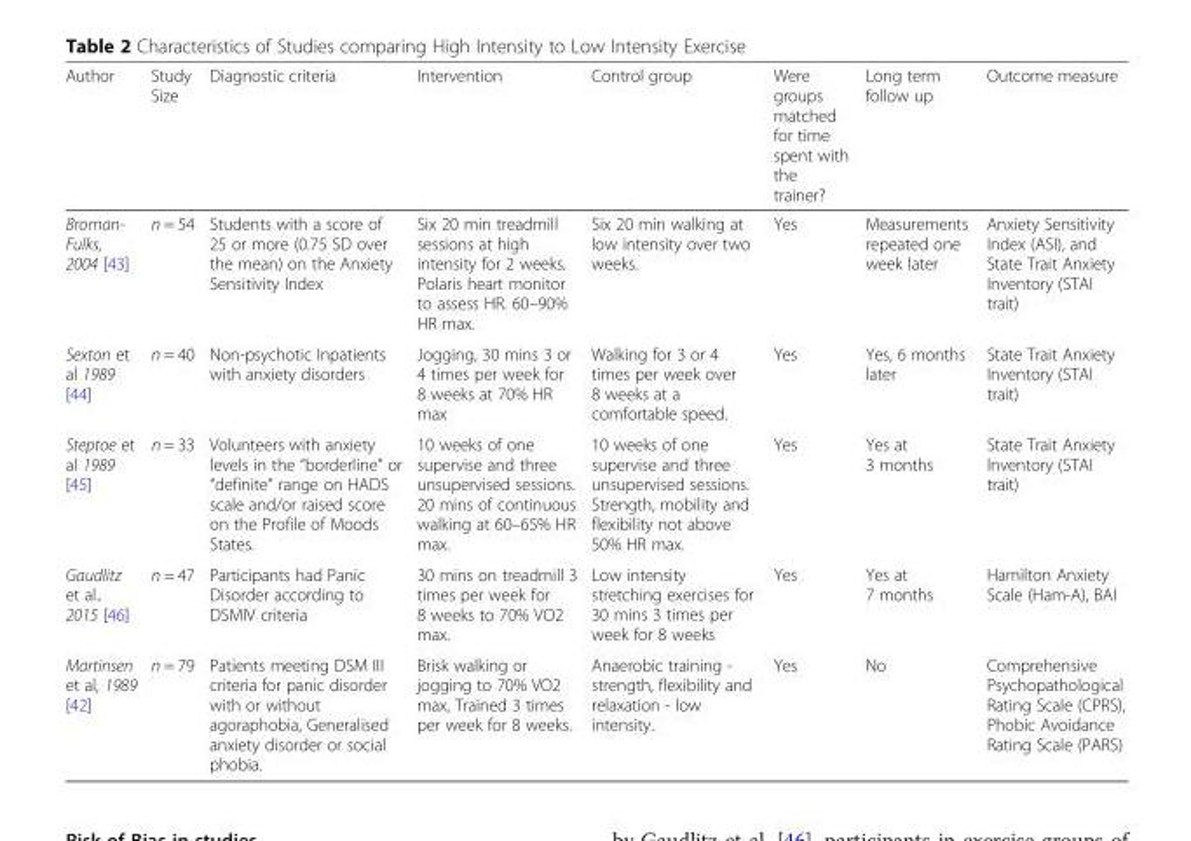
<table><thead><tr><td>Author</td><td>Study Size</td><td>Diagnostic criteria</td><td>Intervention</td><td>Control group</td><td>Were groups matched for time spent with the trainer?</td><td>Long term follow up</td><td>Outcome measure</td></tr></thead><tbody><tr><td>Broman- Fulks, 2004 [43]</td><td>n = 54</td><td>Students with a score of 25 or more (0.75 SD over the mean) on the Anxiety Sensitivity Index</td><td>Six 20 min treadmill sessions at high intensity for 2 weeks. Polaris heart monitor to assess HR. 60–90% HR max.</td><td>Six 20 min walking at low intensity over two weeks.</td><td>Yes</td><td>Measurements repeated one week later</td><td>Anxiety Sensitivity Index (ASI), and State Trait Anxiety Inventory (STAI trait)</td></tr><tr><td>Sexton et al 1989 [44]</td><td>n = 40</td><td>Non-psychotic Inpatients with anxiety disorders</td><td>Jogging, 30 mins 3 or 4 times per week for 8 weeks at 70% HR max</td><td>Walking for 3 or 4 times per week over 8 weeks at a comfortable speed.</td><td>Yes</td><td>Yes, 6 months later</td><td>State Trait Anxiety Inventory (STAI trait)</td></tr><tr><td>Steptoe et al 1989 [45]</td><td>n = 33</td><td>Volunteers with anxiety levels in the “borderline” or “definite” range on HADS scale and/or raised score on the Profile of Moods States.</td><td>10 weeks of one supervise and three unsupervised sessions. 20 mins of continuous walking at 60–65% HR max.</td><td>10 weeks of one supervise and three unsupervised sessions. Strength, mobility and flexibility not above 50% HR max.</td><td>Yes</td><td>Yes at 3 months</td><td>State Trait Anxiety Inventory (STAI trait)</td></tr><tr><td>Gaudlitz et al.. 2015 [46]</td><td>n = 47</td><td>Participants had Panic Disorder according to DSMIV criteria</td><td>30 mins on treadmill 3 times per week for 8 weeks to 70% VO2 max.</td><td>Low intensity stretching exercises for 30 mins 3 times per week for 8 weeks</td><td>Yes</td><td>Yes at 7 months</td><td>Hamilton Anxiety Scale (Ham-A), BAI</td></tr><tr><td>Martinsen et al, 1989 [42]</td><td>n = 79</td><td>Patients meeting DSM III criteria for panic disorder with or without agoraphobia, Generalised anxiety disorder or social phobia.</td><td>Brisk walking or jogging to 70% VO2 max, Trained 3 times per week for 8 weeks.</td><td>Anaerobic training - strength, flexibility and relaxation - low intensity.</td><td>Yes</td><td>No</td><td>Comprehensive Psychopathological Rating Scale (CPRS), Phobic Avoidance Rating Scale (PARS)</td></tr></tbody></table>